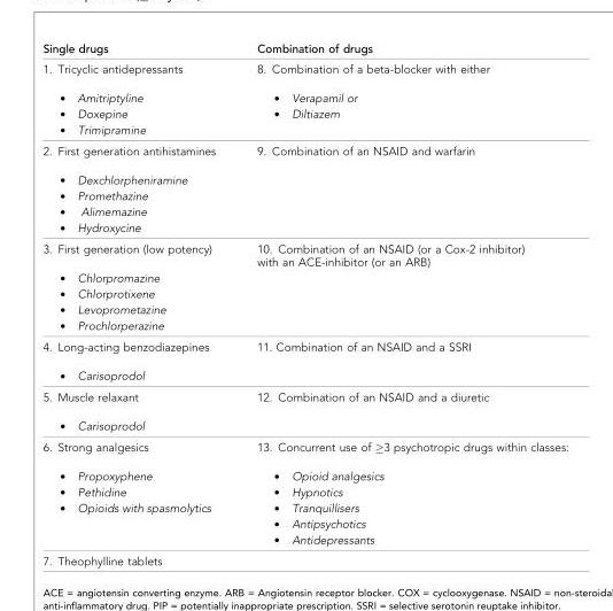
<table><tbody><tr><td>Single drugs</td><td>Combination of drugs</td></tr><tr><td>1. Tricyclic antidepressants . Amitriptyline . Doxepine . Trimipramine</td><td>8. Combination of a beta-blocker with either . Verapamil or . Diltiazem</td></tr><tr><td>2. First generation antihistamines . Dexchlorpheniramine . Promethazine . Alimemazine . Hydroxycine</td><td>9. Combination of an NSAID and warfarin</td></tr><tr><td>3. First generation (low potency) . Chlorpromazine . Chlorprotixene . Levoprometazine . Prochlorperazine</td><td>10. Combination of an NSAID (or a Cox-2 inhibitor) with an ACE-inhibitor (or an ARB)</td></tr><tr><td>4. Long-acting benzodiazepines . Carisoprodol</td><td>11. Combination of an NSAID and a SSRI</td></tr><tr><td>5. Muscle relaxant . Carisoprodol</td><td>12. Combination of an NSAID and a diuretic</td></tr><tr><td>6. Strong analgesics . Propoxyphene . Pethidine . Opioids with spasmolytics</td><td>13. Concurrent use of �3 psychotropic drugs within classes: . Opioid analgesics . Hypnotics . Tranquillisers . Antipsychotics . Antidepressants</td></tr><tr><td>7. Theophylline tablets</td><td></td></tr></tbody></table>